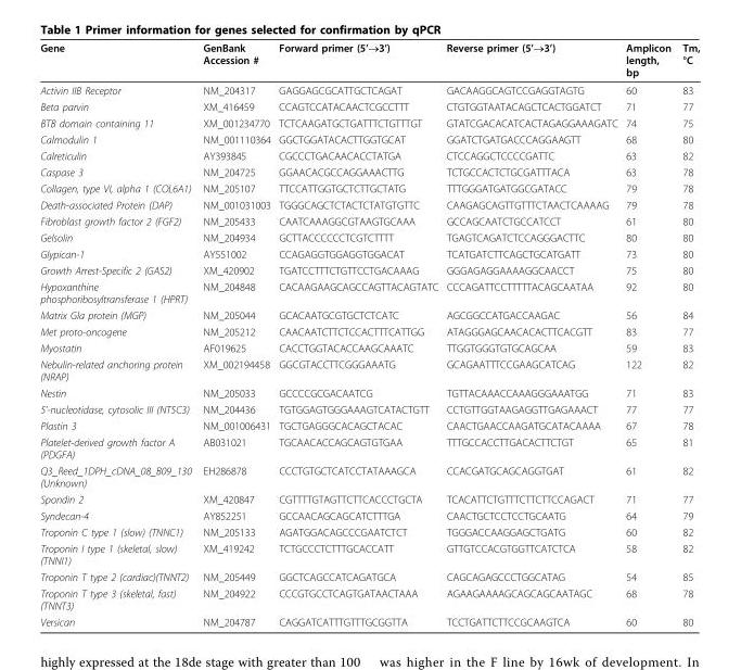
<table><thead><tr><td>Gene</td><td>GenBank Accession #</td><td>Forward primer (5’→3’)</td><td>Reverse primer (5’→3’)</td><td>Amplicon length, bp</td><td>Tm, °C</td></tr></thead><tbody><tr><td>Activin IIB Receptor</td><td>NM_204317</td><td>GAGGAGCGCATTGCTCAGAT</td><td>GACAAGGCAGTCCGAGGTAGTG</td><td>60</td><td>83</td></tr><tr><td>Beta parvin</td><td>XM_416459</td><td>CCAGTCCATACAACTCGCCTTT</td><td>CTGTGGTAATACAGCTCACTGGATCT</td><td>71</td><td>77</td></tr><tr><td>BTB domain containing 11</td><td>XM_001234770</td><td>TCTCAAGATGCTGATTTCTGTTTGT</td><td>GTATCGACACATCACTAGAGGAAAGATC</td><td>74</td><td>75</td></tr><tr><td>Calmodulin 1</td><td>NM_001110364</td><td>GGCTGGATACACTTGGTGCAT</td><td>GGATCTGATGACCCAGGAAGTT</td><td>68</td><td>80</td></tr><tr><td>Calreticulin</td><td>AY393845</td><td>CGCCCTGACAACACCTATGA</td><td>CTCCAGGCTCCCCGATTC</td><td>63</td><td>82</td></tr><tr><td>Caspase 3</td><td>NM_204725</td><td>GGAACACGCCAGGAAACTTG</td><td>TCTGCCACTCTGCGATTTACA</td><td>63</td><td>78</td></tr><tr><td>Collagen, type VI, alpha 1 (COL6A1)</td><td>NM_205107</td><td>TTCCATTGGTGCTCTTGCTATG</td><td>TTTGGGATGATGGCGATACC</td><td>79</td><td>78</td></tr><tr><td>Death-associated Protein (DAP)</td><td>NM_001031003</td><td>TGGGCAGCTCTACTCTATGTGTTC</td><td>CAAGAGCAGTTGTTTCTAACTCAAAAG</td><td>79</td><td>78</td></tr><tr><td>Fibroblast growth factor 2 (FGF2)</td><td>NM_205433</td><td>CAATCAAAGGCGTAAGTGCAAA</td><td>GCCAGCAATCTGCCATCCT</td><td>61</td><td>80</td></tr><tr><td>Gelsolin</td><td>NM_204934</td><td>GCTTACCCCCCTCGTCTTTT</td><td>TGAGTCAGATCTCCAGGGACTTC</td><td>80</td><td>80</td></tr><tr><td>Glypican-1</td><td>AY551002</td><td>CCAGAGGTGGAGGTGGACAT</td><td>TCATGATCTTCAGCTGCATGATT</td><td>73</td><td>80</td></tr><tr><td>Growth Arrest-Specific 2 (GAS2)</td><td>XM_420902</td><td>TGATCCTTTCTGTTCCTGACAAAG</td><td>GGGAGAGGAAAAGGCAACCT</td><td>75</td><td>80</td></tr><tr><td>Hypoxanthine phosphoribosyltransferase 1 (HPRT)</td><td>NM_204848</td><td>CACAAGAAGCAGCCAGTTACAGTATC</td><td>CCCAGATTCCTTTTTACAGCAATAA</td><td>92</td><td>80</td></tr><tr><td>Matrix Gla protein (MGP)</td><td>NM_205044</td><td>GCACAATGCGTGCTCTCATC</td><td>AGCGGCCATGACCAAGAC</td><td>56</td><td>84</td></tr><tr><td>Met proto-oncogene</td><td>NM_205212</td><td>CAACAATCTTCTCCACTTTCATTGG</td><td>ATAGGGAGCAACACACTTCACGTT</td><td>83</td><td>77</td></tr><tr><td>Myostatin</td><td>AF019625</td><td>CACCTGGTACACCAAGCAAATC</td><td>TTGGTGGGTGTGCAGCAA</td><td>59</td><td>83</td></tr><tr><td>Nebulin-related anchoring protein (NRAP)</td><td>XM_002194458</td><td>GGCGTACCTTCGGGAAATG</td><td>GCAGAATTTCCGAAGCATCAG</td><td>122</td><td>82</td></tr><tr><td>Nestin</td><td>NM_205033</td><td>GCCCCGCGACAATCG</td><td>TGTTACAAACCAAAGGGAAATGG</td><td>71</td><td>83</td></tr><tr><td>5’-nucleotidase, cytosolic III (NT5C3)</td><td>NM_204436</td><td>TGTGGAGTGGGAAAGTCATACTGTT</td><td>CCTGTTGGTAAGAGGTTGAGAAACT</td><td>77</td><td>77</td></tr><tr><td>Plastin 3</td><td>NM_001006431</td><td>TGCTGAGGGCACAGCTACAC</td><td>CAACTGAACCAAGATGCATACAAAA</td><td>67</td><td>78</td></tr><tr><td>Platelet-derived growth factor A (PDGFA)</td><td>AB031021</td><td>TGCAACACCAGCAGTGTGAA</td><td>TTTGCCACCTTGACACTTCTGT</td><td>65</td><td>81</td></tr><tr><td>Q3_Reed_1DPH_cDNA_08_B09_130 (Unknown)</td><td>EH286878</td><td>CCCTGTGCTCATCCTATAAAGCA</td><td>CCACGATGCAGCAGGTGAT</td><td>61</td><td>82</td></tr><tr><td>Spondin 2</td><td>XM_420847</td><td>CGTTTTGTAGTTCTTCACCCTGCTA</td><td>TCACATTCTGTTTCTTCTTCCAGACT</td><td>71</td><td>77</td></tr><tr><td>Syndecan-4</td><td>AY852251</td><td>GCCAACAGCAGCATCTTTGA</td><td>CAACTGCTCCTCCTGCAATG</td><td>64</td><td>79</td></tr><tr><td>Troponin C type 1 (slow) (TNNC1)</td><td>NM_205133</td><td>AGATGGACAGCCCGAATCTCT</td><td>TGGGACCAAGGAGCTGATG</td><td>60</td><td>82</td></tr><tr><td>Troponin I type 1 (skeletal, slow) (TNNI1)</td><td>XM_419242</td><td>TCTGCCCTCTTTGCACCATT</td><td>GTTGTCCACGTGGTTCATCTCA</td><td>58</td><td>82</td></tr><tr><td>Troponin T type 2 (cardiac)(TNNT2)</td><td>NM_205449</td><td>GGCTCAGCCATCAGATGCA</td><td>CAGCAGAGCCCTGGCATAG</td><td>54</td><td>85</td></tr><tr><td>Troponin T type 3 (skeletal, fast) (TNNT3)</td><td>NM_204922</td><td>CCCGTGCCTCAGTGATAACTAAA</td><td>AGAAGAAAAGCAGCAGCAATAGC</td><td>68</td><td>78</td></tr><tr><td>Versican</td><td>NM_204787</td><td>CAGGATCATTTGTTTGCGGTTA</td><td>TCCTGATTCTTCCGCAAGTCA</td><td>60</td><td>80</td></tr></tbody></table>